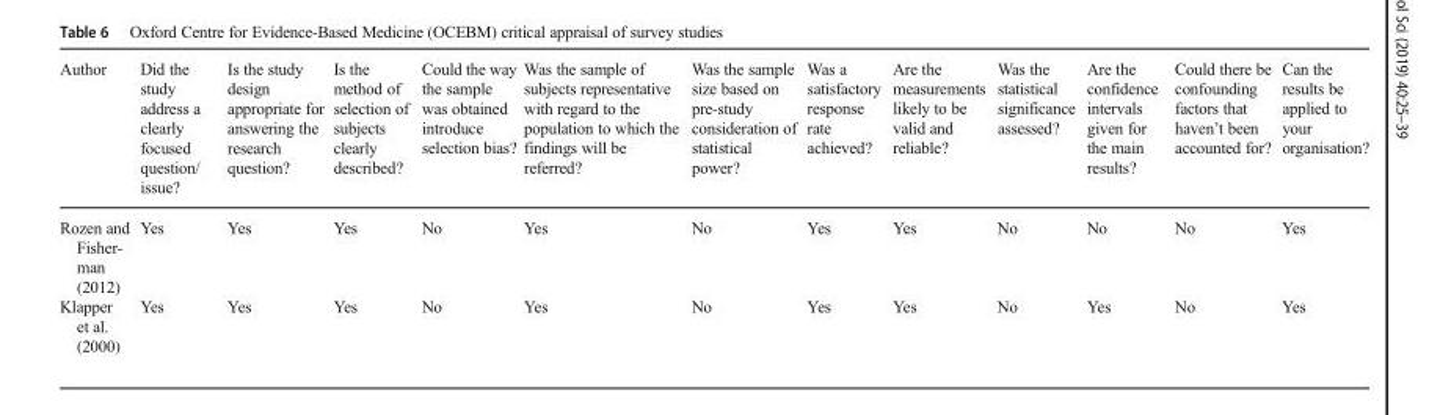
<table><thead><tr><td>Author</td><td>Did the study address a clearly focused question/ issue?</td><td>Is the study design appropriate for answering the research question?</td><td>Is the method of selection of subjects clearly described?</td><td>Could the way the sample was obtained introduce selection bias?</td><td>Was the sample of subjects representative with regard to the population to which the findings will be referred?</td><td>Was the sample size based on pre-study consideration of statistical power?</td><td>Was a satisfactory response rate achieved?</td><td>Are the measurements likely to be valid and reliable?</td><td>Was the statistical significance assessed?</td><td>Are the confidence intervals given for the main results?</td><td>Could there be confounding factors that haven’t been accounted for?</td><td>Can the results be applied to your organisation?</td></tr></thead><tbody><tr><td>Rozen and Fisher- man (2012)</td><td>Yes</td><td>Yes</td><td>Yes</td><td>No</td><td>Yes</td><td>No</td><td>Yes</td><td>Yes</td><td>No</td><td>No</td><td>No</td><td>Yes</td></tr><tr><td>Klapper et al. (2000)</td><td>Yes</td><td>Yes</td><td>Yes</td><td>No</td><td>Yes</td><td>No</td><td>Yes</td><td>Yes</td><td>No</td><td>Yes</td><td>No</td><td>Yes</td></tr></tbody></table>